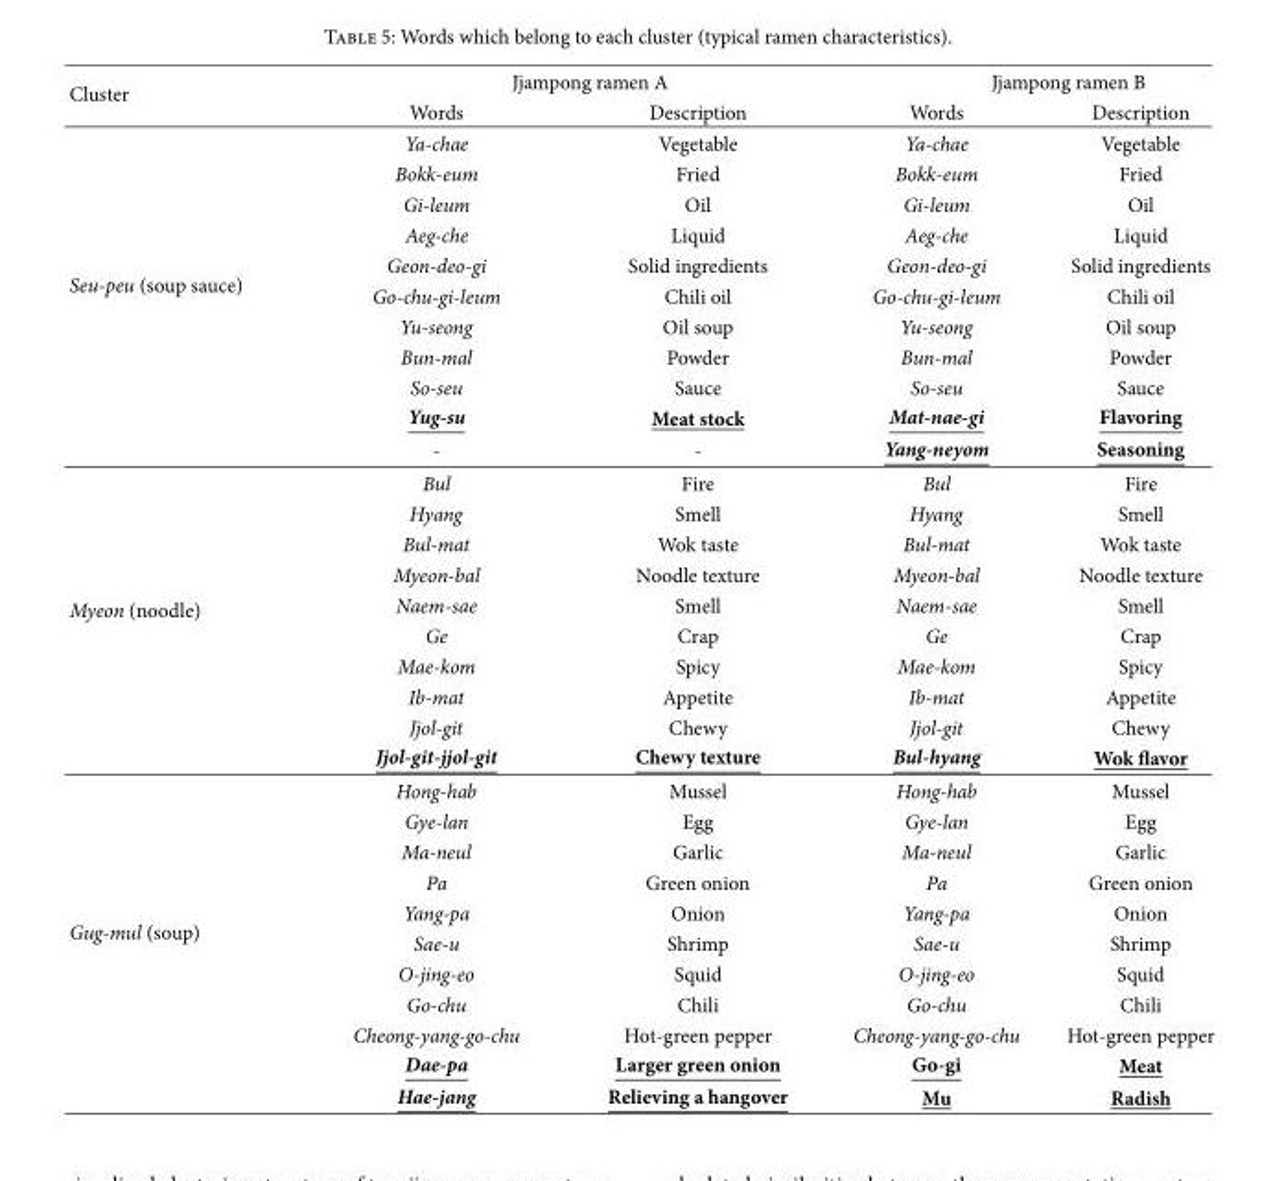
<table><thead><tr><td rowspan="2">Cluster</td><td colspan="2">Jjampong ramen A</td><td colspan="2">Jjampong ramen B</td></tr><tr><td>Words</td><td>Description</td><td>Words</td><td>Description</td></tr></thead><tbody><tr><td rowspan="11">Seu-peu (soup sauce)</td><td>Ya-chae</td><td>Vegetable</td><td>Ya-chae</td><td>Vegetable</td></tr><tr><td>Bokk-eum</td><td>Fried</td><td>Bokk-eum</td><td>Fried</td></tr><tr><td>Gi-leum</td><td>Oil</td><td>Gi-leum</td><td>Oil</td></tr><tr><td>Aeg-che</td><td>Liquid</td><td>Aeg-che</td><td>Liquid</td></tr><tr><td>Geon-deo-gi</td><td>Solid ingredients</td><td>Geon-deo-gi</td><td>Solid ingredients</td></tr><tr><td>Go-chu-gi-leum</td><td>Chili oil</td><td>Go-chu-gi-leum</td><td>Chili oil</td></tr><tr><td>Yu-seong</td><td>Oil soup</td><td>Yu-seong</td><td>Oil soup</td></tr><tr><td>Bun-mal</td><td>Powder</td><td>Bun-mal</td><td>Powder</td></tr><tr><td>So-seu</td><td>Sauce</td><td>So-seu</td><td>Sauce</td></tr><tr><td>Yug-su</td><td>Meat stock</td><td>Mat-nae-gi</td><td>Flavoring</td></tr><tr><td>-</td><td>-</td><td>Yang-neyom</td><td>Seasoning</td></tr><tr><td rowspan="10">Myeon (noodle)</td><td>Bul</td><td>Fire</td><td>Bul</td><td>Fire</td></tr><tr><td>Hyang</td><td>Smell</td><td>Hyang</td><td>Smell</td></tr><tr><td>Bul-mat</td><td>Wok taste</td><td>Bul-mat</td><td>Wok taste</td></tr><tr><td>Myeon-bal</td><td>Noodle texture</td><td>Myeon-bal</td><td>Noodle texture</td></tr><tr><td>Naem-sae</td><td>Smell</td><td>Naem-sae</td><td>Smell</td></tr><tr><td>Ge</td><td>Crap</td><td>Ge</td><td>Crap</td></tr><tr><td>Mae-kom</td><td>Spicy</td><td>Mae-kom</td><td>Spicy</td></tr><tr><td>Ib-mat</td><td>Appetite</td><td>Ib-mat</td><td>Appetite</td></tr><tr><td>Jjol-git</td><td>Chewy</td><td>Jjol-git</td><td>Chewy</td></tr><tr><td>Jjol-git-jjol-git</td><td>Chewy texture</td><td>Bul-hyang</td><td>Wok flavor</td></tr><tr><td rowspan="11">Gug-mul (soup)</td><td>Hong-hab</td><td>Mussel</td><td>Hong-hab</td><td>Mussel</td></tr><tr><td>Gye-lan</td><td>Egg</td><td>Gye-lan</td><td>Egg</td></tr><tr><td>Ma-neul</td><td>Garlic</td><td>Ma-neul</td><td>Garlic</td></tr><tr><td>Pa</td><td>Green onion</td><td>Pa</td><td>Green onion</td></tr><tr><td>Yang-pa</td><td>Onion</td><td>Yang-pa</td><td>Onion</td></tr><tr><td>Sae-u</td><td>Shrimp</td><td>Sae-u</td><td>Shrimp</td></tr><tr><td>O-jing-eo</td><td>Squid</td><td>O-jing-eo</td><td>Squid</td></tr><tr><td>Go-chu</td><td>Chili</td><td>Go-chu</td><td>Chili</td></tr><tr><td>Cheong-yang-go-chu</td><td>Hot-green pepper</td><td>Cheong-yang-go-chu</td><td>Hot-green pepper</td></tr><tr><td>Dae-pa</td><td>Larger green onion</td><td>Go-gi</td><td>Meat</td></tr><tr><td>Hae-jang</td><td>Relieving a hangover</td><td>Mu</td><td>Radish</td></tr></tbody></table>